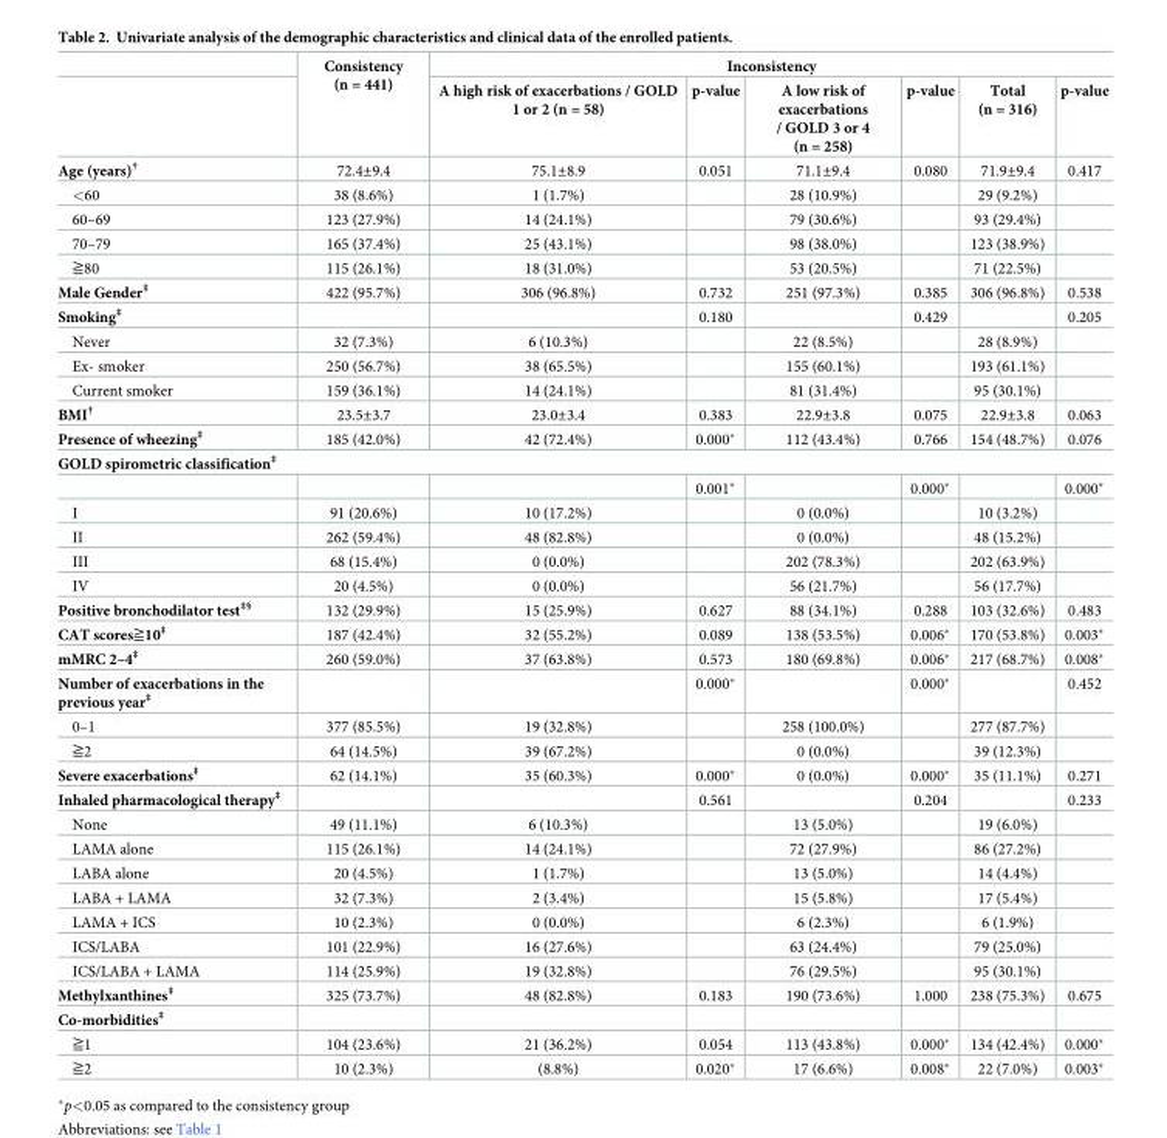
<table><thead><tr><td rowspan="2"></td><td rowspan="2">Consistency (n = 441)</td><td colspan="6">Inconsistency</td></tr><tr><td>A high risk of exacerbations / GOLD 1 or 2 (n = 58)</td><td>p-value</td><td>A low risk of exacerbations / GOLD 3 or 4 (n = 258)</td><td>p-value</td><td>Total (n = 316)</td><td>p-value</td></tr></thead><tbody><tr><td>Age (years)<sup>†</sup></td><td>72.4±9.4</td><td>75.1±8.9</td><td>0.051</td><td>71.1±9.4</td><td>0.080</td><td>71.9±9.4</td><td>0.417</td></tr><tr><td>&lt;60</td><td>38 (8.6%)</td><td>1 (1.7%)</td><td></td><td>28 (10.9%)</td><td></td><td>29 (9.2%)</td><td></td></tr><tr><td>60–69</td><td>123 (27.9%)</td><td>14 (24.1%)</td><td></td><td>79 (30.6%)</td><td></td><td>93 (29.4%)</td><td></td></tr><tr><td>70–79</td><td>165 (37.4%)</td><td>25 (43.1%)</td><td></td><td>98 (38.0%)</td><td></td><td>123 (38.9%)</td><td></td></tr><tr><td>≧80</td><td>115 (26.1%)</td><td>18 (31.0%)</td><td></td><td>53 (20.5%)</td><td></td><td>71 (22.5%)</td><td></td></tr><tr><td>Male Gender<sup>‡</sup></td><td>422 (95.7%)</td><td>306 (96.8%)</td><td>0.732</td><td>251 (97.3%)</td><td>0.385</td><td>306 (96.8%)</td><td>0.538</td></tr><tr><td>Smoking<sup>‡</sup></td><td></td><td></td><td>0.180</td><td></td><td>0.429</td><td></td><td>0.205</td></tr><tr><td>Never</td><td>32 (7.3%)</td><td>6 (10.3%)</td><td></td><td>22 (8.5%)</td><td></td><td>28 (8.9%)</td><td></td></tr><tr><td>Ex- smoker</td><td>250 (56.7%)</td><td>38 (65.5%)</td><td></td><td>155 (60.1%)</td><td></td><td>193 (61.1%)</td><td></td></tr><tr><td>Current smoker</td><td>159 (36.1%)</td><td>14 (24.1%)</td><td></td><td>81 (31.4%)</td><td></td><td>95 (30.1%)</td><td></td></tr><tr><td>BMI<sup>†</sup></td><td>23.5±3.7</td><td>23.0±3.4</td><td>0.383</td><td>22.9±3.8</td><td>0.075</td><td>22.9±3.8</td><td>0.063</td></tr><tr><td>Presence of wheezing<sup>‡</sup></td><td>185 (42.0%)</td><td>42 (72.4%)</td><td>0.000*</td><td>112 (43.4%)</td><td>0.766</td><td>154 (48.7%)</td><td>0.076</td></tr><tr><td colspan="8">GOLD spirometric classification<sup>‡</sup></td></tr><tr><td></td><td></td><td></td><td>0.001*</td><td></td><td>0.000*</td><td></td><td>0.000*</td></tr><tr><td>I</td><td>91 (20.6%)</td><td>10 (17.2%)</td><td></td><td>0 (0.0%)</td><td></td><td>10 (3.2%)</td><td></td></tr><tr><td>II</td><td>262 (59.4%)</td><td>48 (82.8%)</td><td></td><td>0 (0.0%)</td><td></td><td>48 (15.2%)</td><td></td></tr><tr><td>III</td><td>68 (15.4%)</td><td>0 (0.0%)</td><td></td><td>202 (78.3%)</td><td></td><td>202 (63.9%)</td><td></td></tr><tr><td>IV</td><td>20 (4.5%)</td><td>0 (0.0%)</td><td></td><td>56 (21.7%)</td><td></td><td>56 (17.7%)</td><td></td></tr><tr><td>Positive bronchodilator test<sup>‡§</sup></td><td>132 (29.9%)</td><td>15 (25.9%)</td><td>0.627</td><td>88 (34.1%)</td><td>0.288</td><td>103 (32.6%)</td><td>0.483</td></tr><tr><td>CAT scores≧10<sup>‡</sup></td><td>187 (42.4%)</td><td>32 (55.2%)</td><td>0.089</td><td>138 (53.5%)</td><td>0.006*</td><td>170 (53.8%)</td><td>0.003*</td></tr><tr><td>mMRC 2–4<sup>‡</sup></td><td>260 (59.0%)</td><td>37 (63.8%)</td><td>0.573</td><td>180 (69.8%)</td><td>0.006*</td><td>217 (68.7%)</td><td>0.008*</td></tr><tr><td>Number of exacerbations in the previous year<sup>‡</sup></td><td></td><td></td><td>0.000*</td><td></td><td>0.000*</td><td></td><td>0.452</td></tr><tr><td>0–1</td><td>377 (85.5%)</td><td>19 (32.8%)</td><td></td><td>258 (100.0%)</td><td></td><td>277 (87.7%)</td><td></td></tr><tr><td>≧2</td><td>64 (14.5%)</td><td>39 (67.2%)</td><td></td><td>0 (0.0%)</td><td></td><td>39 (12.3%)</td><td></td></tr><tr><td>Severe exacerbations<sup>‡</sup></td><td>62 (14.1%)</td><td>35 (60.3%)</td><td>0.000*</td><td>0 (0.0%)</td><td>0.000*</td><td>35 (11.1%)</td><td>0.271</td></tr><tr><td>Inhaled pharmacological therapy<sup>‡</sup></td><td></td><td></td><td>0.561</td><td></td><td>0.204</td><td></td><td>0.233</td></tr><tr><td>None</td><td>49 (11.1%)</td><td>6 (10.3%)</td><td></td><td>13 (5.0%)</td><td></td><td>19 (6.0%)</td><td></td></tr><tr><td>LAMA alone</td><td>115 (26.1%)</td><td>14 (24.1%)</td><td></td><td>72 (27.9%)</td><td></td><td>86 (27.2%)</td><td></td></tr><tr><td>LABA alone</td><td>20 (4.5%)</td><td>1 (1.7%)</td><td></td><td>13 (5.0%)</td><td></td><td>14 (4.4%)</td><td></td></tr><tr><td>LABA + LAMA</td><td>32 (7.3%)</td><td>2 (3.4%)</td><td></td><td>15 (5.8%)</td><td></td><td>17 (5.4%)</td><td></td></tr><tr><td>LAMA + ICS</td><td>10 (2.3%)</td><td>0 (0.0%)</td><td></td><td>6 (2.3%)</td><td></td><td>6 (1.9%)</td><td></td></tr><tr><td>ICS/LABA</td><td>101 (22.9%)</td><td>16 (27.6%)</td><td></td><td>63 (24.4%)</td><td></td><td>79 (25.0%)</td><td></td></tr><tr><td>ICS/LABA + LAMA</td><td>114 (25.9%)</td><td>19 (32.8%)</td><td></td><td>76 (29.5%)</td><td></td><td>95 (30.1%)</td><td></td></tr><tr><td>Methylxanthines<sup>‡</sup></td><td>325 (73.7%)</td><td>48 (82.8%)</td><td>0.183</td><td>190 (73.6%)</td><td>1.000</td><td>238 (75.3%)</td><td>0.675</td></tr><tr><td colspan="8">Co-morbidities<sup>‡</sup></td></tr><tr><td>≧1</td><td>104 (23.6%)</td><td>21 (36.2%)</td><td>0.054</td><td>113 (43.8%)</td><td>0.000*</td><td>134 (42.4%)</td><td>0.000*</td></tr><tr><td>≧2</td><td>10 (2.3%)</td><td>(8.8%)</td><td>0.020*</td><td>17 (6.6%)</td><td>0.008*</td><td>22 (7.0%)</td><td>0.003*</td></tr></tbody></table>